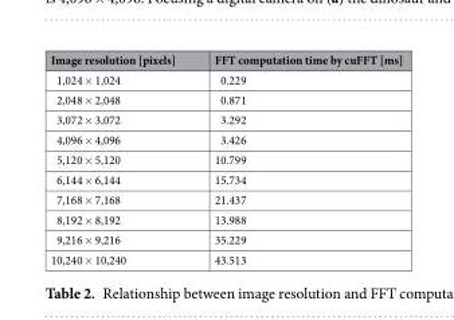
<table><thead><tr><td>Image resolution [pixels]</td><td>FFT computation time by cuFFT [ms]</td></tr></thead><tbody><tr><td>1,024 × 1,024</td><td>0.229</td></tr><tr><td>2,048 × 2,048</td><td>0.871</td></tr><tr><td>3,072 × 3,072</td><td>3.292</td></tr><tr><td>4,096 × 4,096</td><td>3.426</td></tr><tr><td>5,120 × 5,120</td><td>10.799</td></tr><tr><td>6,144 × 6,144</td><td>15.734</td></tr><tr><td>7,168 × 7,168</td><td>21.437</td></tr><tr><td>8,192 × 8,192</td><td>13.988</td></tr><tr><td>9,216 × 9,216</td><td>35.229</td></tr><tr><td>10,240 × 10,240</td><td>43.513</td></tr></tbody></table>